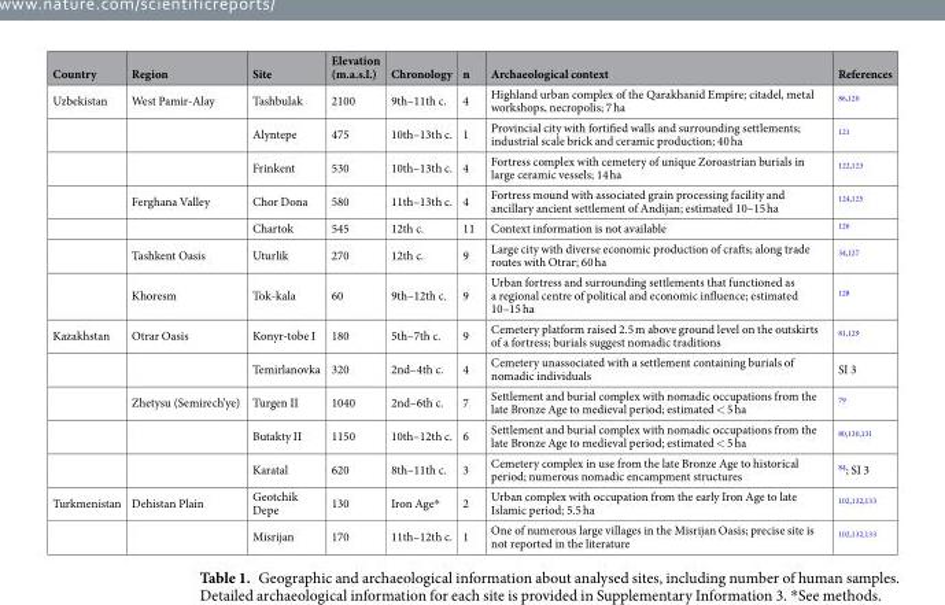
<table><thead><tr><td>Country</td><td>Region</td><td>Site</td><td>Elevation (m.a.s.l.)</td><td>Chronology</td><td>n</td><td>Archaeological context</td><td>References</td></tr></thead><tbody><tr><td rowspan="7">Uzbekistan</td><td>West Pamir-Alay</td><td>Tashbulak</td><td>2100</td><td>9th–11th c.</td><td>4</td><td>Highland urban complex of the Qarakhanid Empire; citadel, metal workshops, necropolis; 7 ha</td><td><sup>86,120</sup></td></tr><tr><td></td><td>Alyntepe</td><td>475</td><td>10th–13th c.</td><td>1</td><td>Provincial city with fortified walls and surrounding settlements; industrial scale brick and ceramic production; 40 ha</td><td><sup>121</sup></td></tr><tr><td></td><td>Frinkent</td><td>530</td><td>10th–13th c.</td><td>4</td><td>Fortress complex with cemetery of unique Zoroastrian burials in large ceramic vessels; 14 ha</td><td><sup>122,123</sup></td></tr><tr><td>Ferghana Valley</td><td>Chor Dona</td><td>580</td><td>11th–13th c.</td><td>4</td><td>Fortress mound with associated grain processing facility and ancillary ancient settlement of Andijan; estimated 10–15 ha</td><td><sup>124,125</sup></td></tr><tr><td></td><td>Chartok</td><td>545</td><td>12th c.</td><td>11</td><td>Context information is not available</td><td><sup>126</sup></td></tr><tr><td>Tashkent Oasis</td><td>Uturlik</td><td>270</td><td>12th c.</td><td>9</td><td>Large city with diverse economic production of crafts; along trade routes with Otrar; 60 ha</td><td><sup>34,127</sup></td></tr><tr><td>Khoresm</td><td>Tok-kala</td><td>60</td><td>9th–12th c.</td><td>9</td><td>Urban fortress and surrounding settlements that functioned as a regional centre of political and economic influence; estimated 10–15 ha</td><td><sup>128</sup></td></tr><tr><td rowspan="5">Kazakhstan</td><td>Otrar Oasis</td><td>Konyr-tobe I</td><td>180</td><td>5th–7th c.</td><td>9</td><td>Cemetery platform raised 2.5 m above ground level on the outskirts of a fortress; burials suggest nomadic traditions</td><td><sup>81,129</sup></td></tr><tr><td></td><td>Temirlanovka</td><td>320</td><td>2nd–4th c.</td><td>4</td><td>Cemetery unassociated with a settlement containing burials of nomadic individuals</td><td>SI 3</td></tr><tr><td>Zhetysu (Semirech’ye)</td><td>Turgen II</td><td>1040</td><td>2nd–6th c.</td><td>7</td><td>Settlement and burial complex with nomadic occupations from the late Bronze Age to medieval period; estimated &lt; 5 ha</td><td><sup>79</sup></td></tr><tr><td></td><td>Butakty II</td><td>1150</td><td>10th–12th c.</td><td>6</td><td>Settlement and burial complex with nomadic occupations from the late Bronze Age to medieval period; estimated &lt; 5 ha</td><td><sup>80,130,131</sup></td></tr><tr><td></td><td>Karatal</td><td>620</td><td>8th–11th c.</td><td>3</td><td>Cemetery complex in use from the late Bronze Age to historical period; numerous nomadic encampment structures</td><td><sup>84</sup>; SI 3</td></tr><tr><td rowspan="2">Turkmenistan</td><td>Dehistan Plain</td><td>Geotchik Depe</td><td>130</td><td>Iron Age*</td><td>2</td><td>Urban complex with occupation from the early Iron Age to late Islamic period; 5.5 ha</td><td><sup>102,132,133</sup></td></tr><tr><td></td><td>Misrijan</td><td>170</td><td>11th–12th c.</td><td>1</td><td>One of numerous large villages in the Misrijan Oasis; precise site is not reported in the literature</td><td><sup>102,132,133</sup></td></tr></tbody></table>